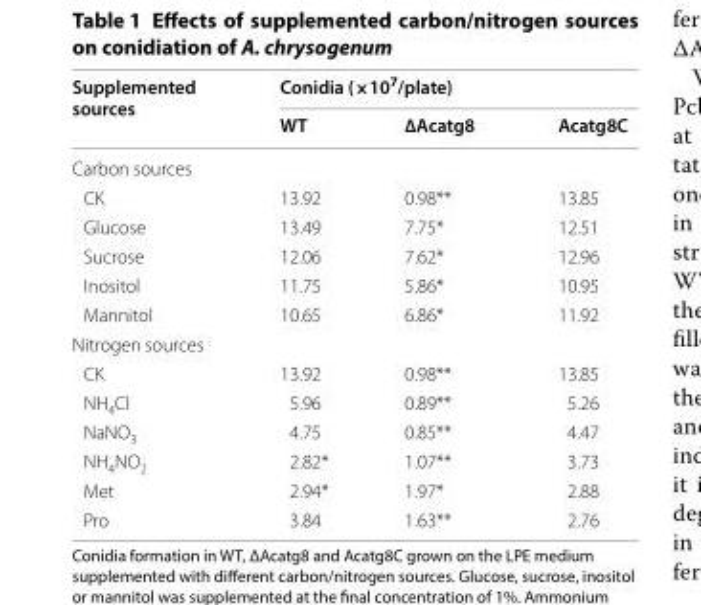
<table><thead><tr><td rowspan="2">Supplemented sources</td><td colspan="3">Conidia (×10<sup>7</sup>/plate)</td></tr><tr><td>WT</td><td>∆Acatg8</td><td>Acatg8C</td></tr></thead><tbody><tr><td colspan="4">Carbon sources</td></tr><tr><td>CK</td><td>13.92</td><td>0.98**</td><td>13.85</td></tr><tr><td>Glucose</td><td>13.49</td><td>7.75*</td><td>12.51</td></tr><tr><td>Sucrose</td><td>12.06</td><td>7.62*</td><td>12.96</td></tr><tr><td>Inositol</td><td>11.75</td><td>5.86*</td><td>10.95</td></tr><tr><td>Mannitol</td><td>10.65</td><td>6.86*</td><td>11.92</td></tr><tr><td colspan="4">Nitrogen sources</td></tr><tr><td>CK</td><td>13.92</td><td>0.98**</td><td>13.85</td></tr><tr><td>NH<sub>4</sub>Cl</td><td>5.96</td><td>0.89**</td><td>5.26</td></tr><tr><td>NaNO<sub>3</sub></td><td>4.75</td><td>0.85**</td><td>4.47</td></tr><tr><td>NH<sub>4</sub>NO<sub>2</sub></td><td>2.82*</td><td>1.07**</td><td>3.73</td></tr><tr><td>Met</td><td>2.94*</td><td>1.97*</td><td>2.88</td></tr><tr><td>Pro</td><td>3.84</td><td>1.63**</td><td>2.76</td></tr></tbody></table>